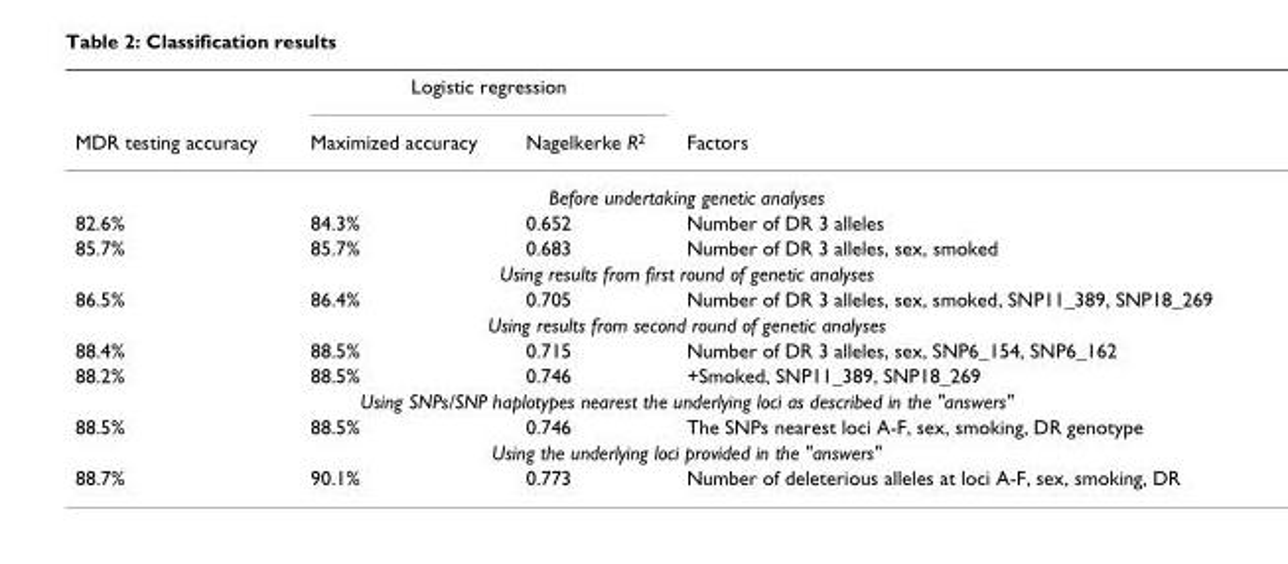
<table><thead><tr><td rowspan="2">MDR testing accuracy</td><td colspan="2">Logistic regression</td><td rowspan="2">Factors</td></tr><tr><td>Maximized accuracy</td><td>Nagelkerke R<sup>2</sup></td></tr></thead><tbody><tr><td colspan="4">Before undertaking genetic analyses</td></tr><tr><td>82.6%</td><td>84.3%</td><td>0.652</td><td>Number of DR 3 alleles</td></tr><tr><td>85.7%</td><td>85.7%</td><td>0.683</td><td>Number of DR 3 alleles, sex, smoked</td></tr><tr><td colspan="4">Using results from first round of genetic analyses</td></tr><tr><td>86.5%</td><td>86.4%</td><td>0.705</td><td>Number of DR 3 alleles, sex, smoked, SNP11_389, SNP18_269</td></tr><tr><td colspan="4">Using results from second round of genetic analyses</td></tr><tr><td>88.4%</td><td>88.5%</td><td>0.715</td><td>Number of DR 3 alleles, sex, SNP6_154, SNP6_162</td></tr><tr><td>88.2%</td><td>88.5%</td><td>0.746</td><td>+Smoked, SNP11_389, SNP18_269</td></tr><tr><td colspan="4">Using SNPs/SNP haplotypes nearest the underlying loci as described in the &quot;answers&quot;</td></tr><tr><td>88.5%</td><td>88.5%</td><td>0.746</td><td>The SNPs nearest loci A-F, sex, smoking, DR genotype</td></tr><tr><td colspan="4">Using the underlying loci provided in the &quot;answers&quot;</td></tr><tr><td>88.7%</td><td>90.1%</td><td>0.773</td><td>Number of deleterious alleles at loci A-F, sex, smoking, DR</td></tr></tbody></table>